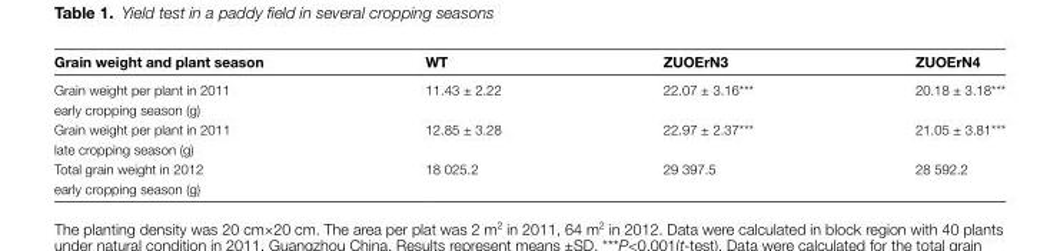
<table><thead><tr><td>Grain weight and plant season</td><td>WT</td><td>ZUOErN3</td><td>ZUOErN4</td></tr></thead><tbody><tr><td>Grain weight per plant in 2011 early cropping season (g)</td><td>11.43 ± 2.22</td><td>22.07 ± 3.16***</td><td>20.18 ± 3.18***</td></tr><tr><td>Grain weight per plant in 2011 late cropping season (g)</td><td>12.85 ± 3.28</td><td>22.97 ± 2.37***</td><td>21.05 ± 3.81***</td></tr><tr><td>Total grain weight in 2012 early cropping season (g)</td><td>18 025.2</td><td>29 397.5</td><td>28 592.2</td></tr></tbody></table>